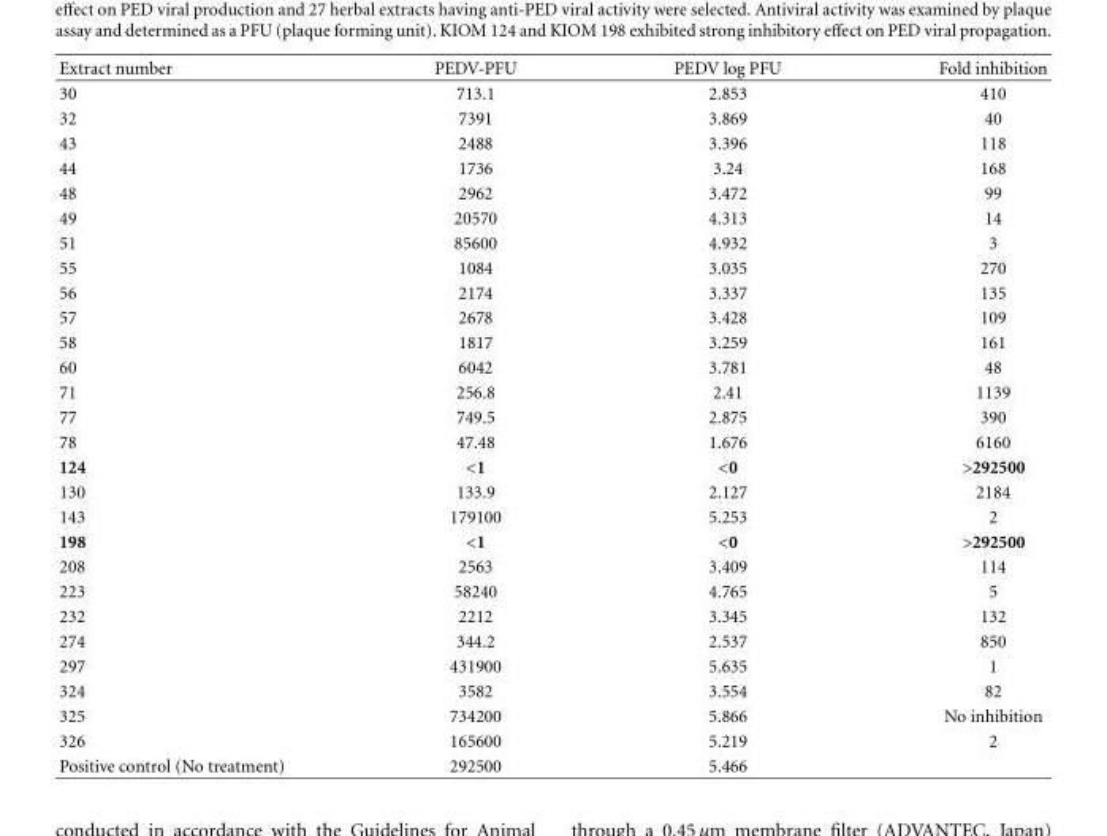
<table><thead><tr><td>Extract number</td><td>PEDV-PFU</td><td>PEDV log PFU</td><td>Fold inhibition</td></tr></thead><tbody><tr><td>30</td><td>713.1</td><td>2.853</td><td>410</td></tr><tr><td>32</td><td>7391</td><td>3.869</td><td>40</td></tr><tr><td>43</td><td>2488</td><td>3.396</td><td>118</td></tr><tr><td>44</td><td>1736</td><td>3.24</td><td>168</td></tr><tr><td>48</td><td>2962</td><td>3.472</td><td>99</td></tr><tr><td>49</td><td>20570</td><td>4.313</td><td>14</td></tr><tr><td>51</td><td>85600</td><td>4.932</td><td>3</td></tr><tr><td>55</td><td>1084</td><td>3.035</td><td>270</td></tr><tr><td>56</td><td>2174</td><td>3.337</td><td>135</td></tr><tr><td>57</td><td>2678</td><td>3.428</td><td>109</td></tr><tr><td>58</td><td>1817</td><td>3.259</td><td>161</td></tr><tr><td>60</td><td>6042</td><td>3.781</td><td>48</td></tr><tr><td>71</td><td>256.8</td><td>2.41</td><td>1139</td></tr><tr><td>77</td><td>749.5</td><td>2.875</td><td>390</td></tr><tr><td>78</td><td>47.48</td><td>1.676</td><td>6160</td></tr><tr><td>124</td><td>&lt;1</td><td>&lt;0</td><td>&gt;292500</td></tr><tr><td>130</td><td>133.9</td><td>2.127</td><td>2184</td></tr><tr><td>143</td><td>179100</td><td>5.253</td><td>2</td></tr><tr><td>198</td><td>&lt;1</td><td>&lt;0</td><td>&gt;292500</td></tr><tr><td>208</td><td>2563</td><td>3.409</td><td>114</td></tr><tr><td>223</td><td>58240</td><td>4.765</td><td>5</td></tr><tr><td>232</td><td>2212</td><td>3.345</td><td>132</td></tr><tr><td>274</td><td>344.2</td><td>2.537</td><td>850</td></tr><tr><td>297</td><td>431900</td><td>5.635</td><td>1</td></tr><tr><td>324</td><td>3582</td><td>3.554</td><td>82</td></tr><tr><td>325</td><td>734200</td><td>5.866</td><td>No inhibition</td></tr><tr><td>326</td><td>165600</td><td>5.219</td><td>2</td></tr><tr><td>Positive control (No treatment)</td><td>292500</td><td>5.466</td><td></td></tr></tbody></table>